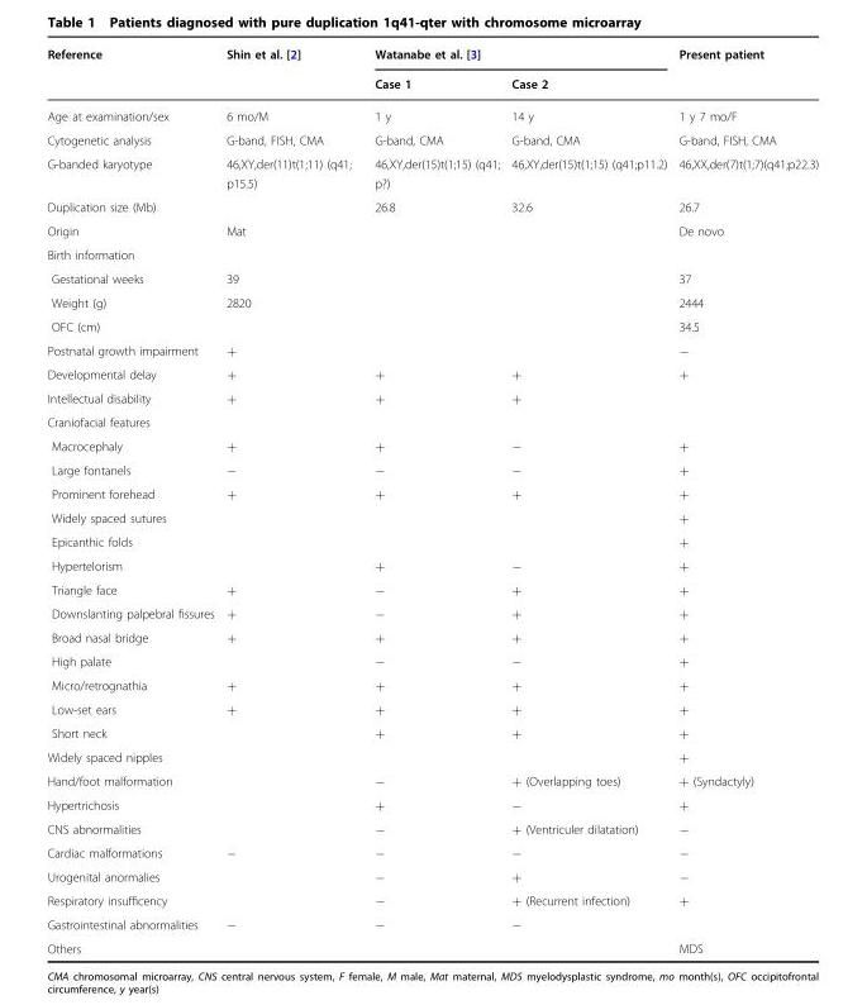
<table><thead><tr><td rowspan="2">Reference</td><td rowspan="2">Shin et al. [2]</td><td colspan="2">Watanabe et al. [3]</td><td rowspan="2">Present patient</td></tr><tr><td>Case 1</td><td>Case 2</td></tr></thead><tbody><tr><td>Age at examination/sex</td><td>6 mo/M</td><td>1 y</td><td>14 y</td><td>1 y 7 mo/F</td></tr><tr><td>Cytogenetic analysis</td><td>G-band, FISH, CMA</td><td>G-band, CMA</td><td>G-band, CMA</td><td>G-band, FISH, CMA</td></tr><tr><td>G-banded karyotype</td><td>46,XY,der(11)t(1;11) (q41; p15.5)</td><td>46,XY,der(15)t(1;15) (q41; p?)</td><td>46,XY,der(15)t(1;15) (q41;p11.2)</td><td>46,XX,der(7)t(1;7)(q41;p22.3)</td></tr><tr><td>Duplication size (Mb)</td><td></td><td>26.8</td><td>32.6</td><td>26.7</td></tr><tr><td>Origin</td><td>Mat</td><td></td><td></td><td>De novo</td></tr><tr><td colspan="5">Birth information</td></tr><tr><td>Gestational weeks</td><td>39</td><td></td><td></td><td>37</td></tr><tr><td>Weight (g)</td><td>2820</td><td></td><td></td><td>2444</td></tr><tr><td>OFC (cm)</td><td></td><td></td><td></td><td>34.5</td></tr><tr><td>Postnatal growth impairment</td><td>+</td><td></td><td></td><td>−</td></tr><tr><td>Developmental delay</td><td>+</td><td>+</td><td>+</td><td>+</td></tr><tr><td>Intellectual disability</td><td>+</td><td>+</td><td>+</td><td></td></tr><tr><td colspan="5">Craniofacial features</td></tr><tr><td>Macrocephaly</td><td>+</td><td>+</td><td>−</td><td>+</td></tr><tr><td>Large fontanels</td><td>−</td><td>−</td><td>−</td><td>+</td></tr><tr><td>Prominent forehead</td><td>+</td><td>+</td><td>+</td><td>+</td></tr><tr><td>Widely spaced sutures</td><td></td><td></td><td></td><td>+</td></tr><tr><td>Epicanthic folds</td><td></td><td></td><td></td><td>+</td></tr><tr><td>Hypertelorism</td><td></td><td>+</td><td>−</td><td>+</td></tr><tr><td>Triangle face</td><td>+</td><td>−</td><td>+</td><td>+</td></tr><tr><td>Downslanting palpebral fissures</td><td>+</td><td>−</td><td>+</td><td>+</td></tr><tr><td>Broad nasal bridge</td><td>+</td><td>+</td><td>+</td><td>+</td></tr><tr><td>High palate</td><td></td><td>−</td><td>−</td><td>+</td></tr><tr><td>Micro/retrognathia</td><td>+</td><td>+</td><td>+</td><td>+</td></tr><tr><td>Low-set ears</td><td>+</td><td>+</td><td>+</td><td>+</td></tr><tr><td>Short neck</td><td></td><td>+</td><td>+</td><td>+</td></tr><tr><td>Widely spaced nipples</td><td></td><td></td><td></td><td>+</td></tr><tr><td>Hand/foot malformation</td><td></td><td>−</td><td>+ (Overlapping toes)</td><td>+ (Syndactyly)</td></tr><tr><td>Hypertrichosis</td><td></td><td>+</td><td>−</td><td>+</td></tr><tr><td>CNS abnormalities</td><td></td><td>−</td><td>+ (Ventriculer dilatation)</td><td>−</td></tr><tr><td>Cardiac malformations</td><td>−</td><td>−</td><td>−</td><td>−</td></tr><tr><td>Urogenital anormalies</td><td></td><td>−</td><td>+</td><td>−</td></tr><tr><td>Respiratory insufficency</td><td></td><td>−</td><td>+ (Recurrent infection)</td><td>+</td></tr><tr><td>Gastrointestinal abnormalities</td><td>−</td><td>−</td><td>−</td><td></td></tr><tr><td>Others</td><td></td><td></td><td></td><td>MDS</td></tr></tbody></table>